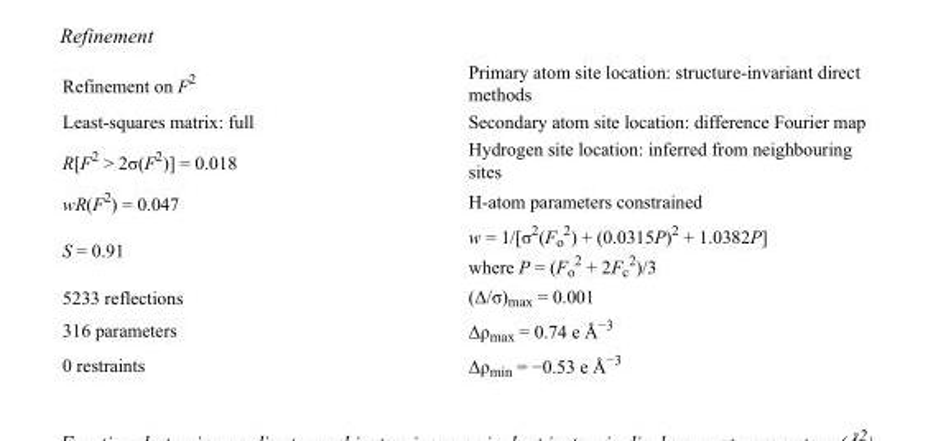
<table><tbody><tr><td>Refinement on F<sup>2</sup></td><td>Primary atom site location: structure-invariant direct methods</td></tr><tr><td>Least-squares matrix: full</td><td>Secondary atom site location: difference Fourier map</td></tr><tr><td>R[F<sup>2</sup> &gt; 2σ(F<sup>2</sup>)] = 0.018</td><td>Hydrogen site location: inferred from neighbouring sites</td></tr><tr><td>wR(F<sup>2</sup>) = 0.047</td><td>H-atom parameters constrained</td></tr><tr><td>S = 0.91</td><td>w = 1/[σ<sup>2</sup>(F<sub>o</sub> <sup>2</sup>) + (0.0315P)<sup>2</sup> + 1.0382P] where P = (F<sub>o</sub> <sup>2</sup> + 2F<sub>c</sub> <sup>2</sup>)/3</td></tr><tr><td>5233 reflections</td><td>(Δ/σ)<sub>max</sub> = 0.001</td></tr><tr><td>316 parameters</td><td>Δρ<sub>max</sub> = 0.74 e Å<sup>−3</sup></td></tr><tr><td>0 restraints</td><td>Δρ<sub>min</sub> = −0.53 e Å<sup>−3</sup></td></tr></tbody></table>